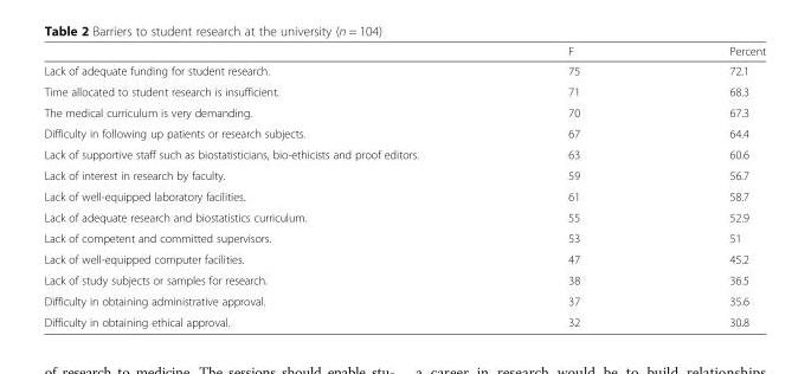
<table><thead><tr><td></td><td>F</td><td>Percent</td></tr></thead><tbody><tr><td>Lack of adequate funding for student research.</td><td>75</td><td>72.1</td></tr><tr><td>Time allocated to student research is insufficient.</td><td>71</td><td>68.3</td></tr><tr><td>The medical curriculum is very demanding.</td><td>70</td><td>67.3</td></tr><tr><td>Difficulty in following up patients or research subjects.</td><td>67</td><td>64.4</td></tr><tr><td>Lack of supportive staff such as biostatisticians, bio-ethicists and proof editors.</td><td>63</td><td>60.6</td></tr><tr><td>Lack of interest in research by faculty.</td><td>59</td><td>56.7</td></tr><tr><td>Lack of well-equipped laboratory facilities.</td><td>61</td><td>58.7</td></tr><tr><td>Lack of adequate research and biostatistics curriculum.</td><td>55</td><td>52.9</td></tr><tr><td>Lack of competent and committed supervisors.</td><td>53</td><td>51</td></tr><tr><td>Lack of well-equipped computer facilities.</td><td>47</td><td>45.2</td></tr><tr><td>Lack of study subjects or samples for research.</td><td>38</td><td>36.5</td></tr><tr><td>Difficulty in obtaining administrative approval.</td><td>37</td><td>35.6</td></tr><tr><td>Difficulty in obtaining ethical approval.</td><td>32</td><td>30.8</td></tr></tbody></table>